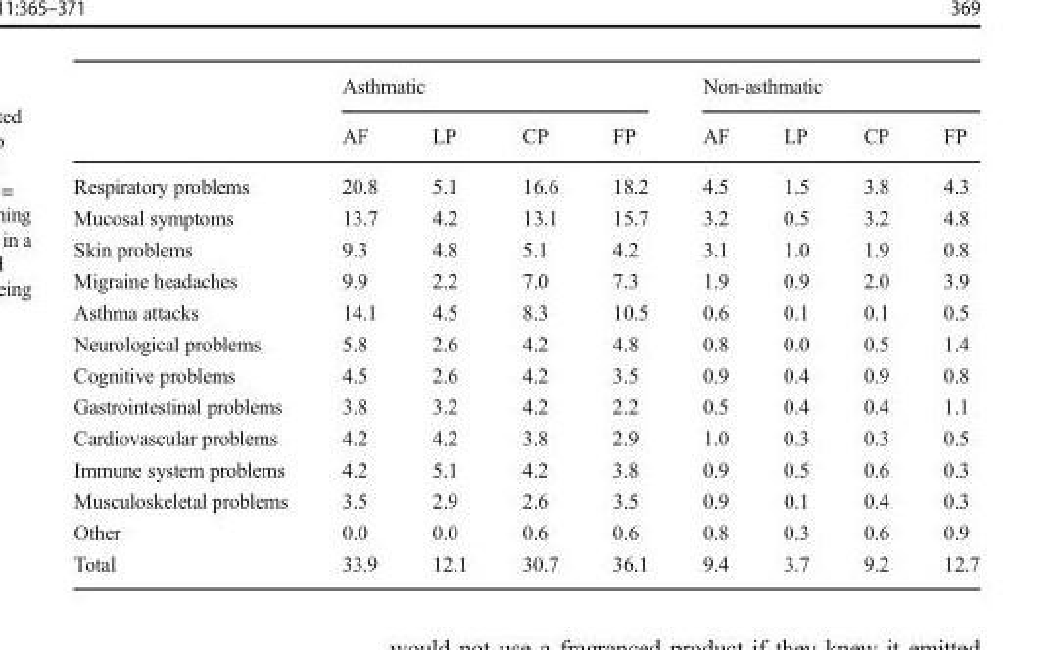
<table><thead><tr><td rowspan="2"></td><td colspan="4">Asthmatic</td><td colspan="4">Non-asthmatic</td></tr><tr><td>AF</td><td>LP</td><td>CP</td><td>FP</td><td>AF</td><td>LP</td><td>CP</td><td>FP</td></tr></thead><tbody><tr><td>Respiratory problems</td><td>20.8</td><td>5.1</td><td>16.6</td><td>18.2</td><td>4.5</td><td>1.5</td><td>3.8</td><td>4.3</td></tr><tr><td>Mucosal symptoms</td><td>13.7</td><td>4.2</td><td>13.1</td><td>15.7</td><td>3.2</td><td>0.5</td><td>3.2</td><td>4.8</td></tr><tr><td>Skin problems</td><td>9.3</td><td>4.8</td><td>5.1</td><td>4.2</td><td>3.1</td><td>1.0</td><td>1.9</td><td>0.8</td></tr><tr><td>Migraine headaches</td><td>9.9</td><td>2.2</td><td>7.0</td><td>7.3</td><td>1.9</td><td>0.9</td><td>2.0</td><td>3.9</td></tr><tr><td>Asthma attacks</td><td>14.1</td><td>4.5</td><td>8.3</td><td>10.5</td><td>0.6</td><td>0.1</td><td>0.1</td><td>0.5</td></tr><tr><td>Neurological problems</td><td>5.8</td><td>2.6</td><td>4.2</td><td>4.8</td><td>0.8</td><td>0.0</td><td>0.5</td><td>1.4</td></tr><tr><td>Cognitive problems</td><td>4.5</td><td>2.6</td><td>4.2</td><td>3.5</td><td>0.9</td><td>0.4</td><td>0.9</td><td>0.8</td></tr><tr><td>Gastrointestinal problems</td><td>3.8</td><td>3.2</td><td>4.2</td><td>2.2</td><td>0.5</td><td>0.4</td><td>0.4</td><td>1.1</td></tr><tr><td>Cardiovascular problems</td><td>4.2</td><td>4.2</td><td>3.8</td><td>2.9</td><td>1.0</td><td>0.3</td><td>0.3</td><td>0.5</td></tr><tr><td>Immune system problems</td><td>4.2</td><td>5.1</td><td>4.2</td><td>3.8</td><td>0.9</td><td>0.5</td><td>0.6</td><td>0.3</td></tr><tr><td>Musculoskeletal problems</td><td>3.5</td><td>2.9</td><td>2.6</td><td>3.5</td><td>0.9</td><td>0.1</td><td>0.4</td><td>0.3</td></tr><tr><td>Other</td><td>0.0</td><td>0.0</td><td>0.6</td><td>0.6</td><td>0.8</td><td>0.3</td><td>0.6</td><td>0.9</td></tr><tr><td>Total</td><td>33.9</td><td>12.1</td><td>30.7</td><td>36.1</td><td>9.4</td><td>3.7</td><td>9.2</td><td>12.7</td></tr></tbody></table>